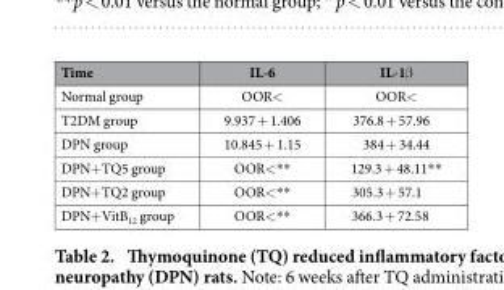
<table><thead><tr><td>Time</td><td>IL-6</td><td>IL-1β</td></tr></thead><tbody><tr><td>Normal group</td><td>OOR&lt;</td><td>OOR&lt;</td></tr><tr><td>T2DM group</td><td>9.937 + 1.406</td><td>376.8 + 57.96</td></tr><tr><td>DPN group</td><td>10.845 + 1.15</td><td>384 + 34.44</td></tr><tr><td>DPN+ TQ5 group</td><td>OOR&lt; * *</td><td>129.3 + 48.11* *</td></tr><tr><td>DPN+ TQ2 group</td><td>OOR&lt; * *</td><td>305.3 + 57.1</td></tr><tr><td>DPN+ VitB<sub>12</sub> group</td><td>OOR&lt; * *</td><td>366.3 + 72.58</td></tr></tbody></table>